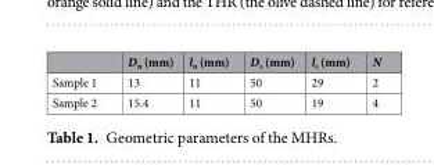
<table><thead><tr><td></td><td>D<sub>n</sub> (mm)</td><td>l<sub>n</sub> (mm)</td><td>D<sub>c</sub> (mm)</td><td>l<sub>c</sub> (mm)</td><td>N</td></tr></thead><tbody><tr><td>Sample 1</td><td>13</td><td>11</td><td>50</td><td>29</td><td>2</td></tr><tr><td>Sample 2</td><td>15.4</td><td>11</td><td>50</td><td>19</td><td>4</td></tr></tbody></table>